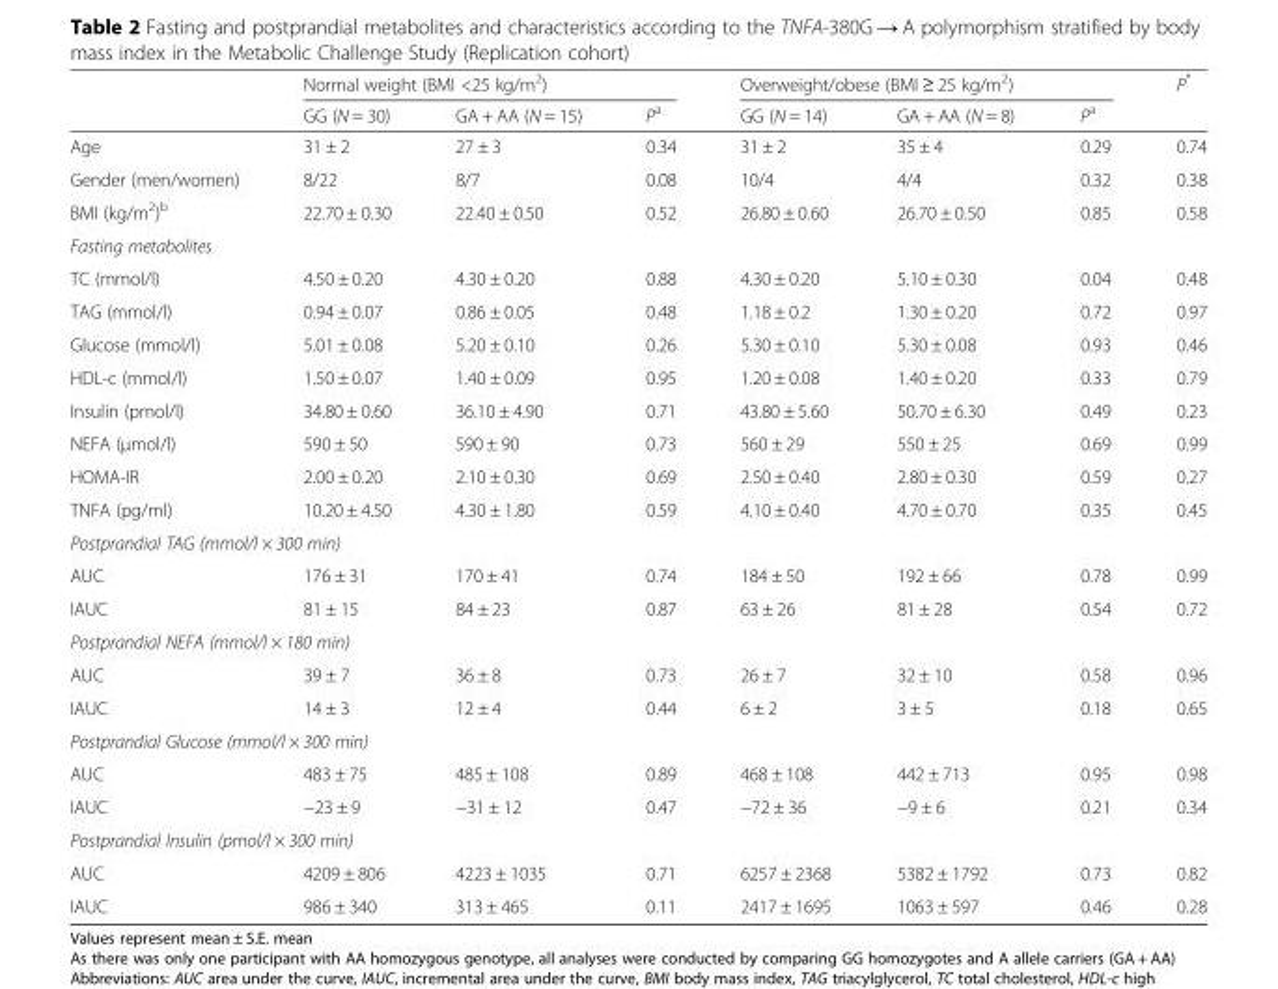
<table><thead><tr><td rowspan="2"></td><td colspan="3">Normal weight (BMI &lt;25 kg/m<sup>2</sup>)</td><td colspan="3">Overweight/obese (BMI ≥ 25 kg/m<sup>2</sup>)</td><td rowspan="2">P*</td></tr><tr><td>GG (N = 30)</td><td>GA + AA (N = 15)</td><td>P<sup>a</sup></td><td>GG (N = 14)</td><td>GA + AA (N = 8)</td><td>P<sup>a</sup></td></tr></thead><tbody><tr><td>Age</td><td>31 ± 2</td><td>27 ± 3</td><td>0.34</td><td>31 ± 2</td><td>35 ± 4</td><td>0.29</td><td>0.74</td></tr><tr><td>Gender (men/women)</td><td>8/22</td><td>8/7</td><td>0.08</td><td>10/4</td><td>4/4</td><td>0.32</td><td>0.38</td></tr><tr><td>BMI (kg/m<sup>2</sup>)<sup>b</sup></td><td>22.70 ± 0.30</td><td>22.40 ± 0.50</td><td>0.52</td><td>26.80 ± 0.60</td><td>26.70 ± 0.50</td><td>0.85</td><td>0.58</td></tr><tr><td colspan="8">Fasting metabolites</td></tr><tr><td>TC (mmol/l)</td><td>4.50 ± 0.20</td><td>4.30 ± 0.20</td><td>0.88</td><td>4.30 ± 0.20</td><td>5.10 ± 0.30</td><td>0.04</td><td>0.48</td></tr><tr><td>TAG (mmol/l)</td><td>0.94 ± 0.07</td><td>0.86 ± 0.05</td><td>0.48</td><td>1.18 ± 0.2</td><td>1.30 ± 0.20</td><td>0.72</td><td>0.97</td></tr><tr><td>Glucose (mmol/l)</td><td>5.01 ± 0.08</td><td>5.20 ± 0.10</td><td>0.26</td><td>5.30 ± 0.10</td><td>5.30 ± 0.08</td><td>0.93</td><td>0.46</td></tr><tr><td>HDL-c (mmol/l)</td><td>1.50 ± 0.07</td><td>1.40 ± 0.09</td><td>0.95</td><td>1.20 ± 0.08</td><td>1.40 ± 0.20</td><td>0.33</td><td>0.79</td></tr><tr><td>Insulin (pmol/l)</td><td>34.80 ± 0.60</td><td>36.10 ± 4.90</td><td>0.71</td><td>43.80 ± 5.60</td><td>50.70 ± 6.30</td><td>0.49</td><td>0.23</td></tr><tr><td>NEFA (μmol/l)</td><td>590 ± 50</td><td>590 ± 90</td><td>0.73</td><td>560 ± 29</td><td>550 ± 25</td><td>0.69</td><td>0.99</td></tr><tr><td>HOMA-IR</td><td>2.00 ± 0.20</td><td>2.10 ± 0.30</td><td>0.69</td><td>2.50 ± 0.40</td><td>2.80 ± 0.30</td><td>0.59</td><td>0.27</td></tr><tr><td>TNFA (pg/ml)</td><td>10.20 ± 4.50</td><td>4.30 ± 1.80</td><td>0.59</td><td>4.10 ± 0.40</td><td>4.70 ± 0.70</td><td>0.35</td><td>0.45</td></tr><tr><td colspan="8">Postprandial TAG (mmol/l × 300 min)</td></tr><tr><td>AUC</td><td>176 ± 31</td><td>170 ± 41</td><td>0.74</td><td>184 ± 50</td><td>192 ± 66</td><td>0.78</td><td>0.99</td></tr><tr><td>IAUC</td><td>81 ± 15</td><td>84 ± 23</td><td>0.87</td><td>63 ± 26</td><td>81 ± 28</td><td>0.54</td><td>0.72</td></tr><tr><td colspan="8">Postprandial NEFA (mmol/l × 180 min)</td></tr><tr><td>AUC</td><td>39 ± 7</td><td>36 ± 8</td><td>0.73</td><td>26 ± 7</td><td>32 ± 10</td><td>0.58</td><td>0.96</td></tr><tr><td>IAUC</td><td>14 ± 3</td><td>12 ± 4</td><td>0.44</td><td>6 ± 2</td><td>3 ± 5</td><td>0.18</td><td>0.65</td></tr><tr><td colspan="8">Postprandial Glucose (mmol/l × 300 min)</td></tr><tr><td>AUC</td><td>483 ± 75</td><td>485 ± 108</td><td>0.89</td><td>468 ± 108</td><td>442 ± 713</td><td>0.95</td><td>0.98</td></tr><tr><td>IAUC</td><td>−23 ± 9</td><td>−31 ± 12</td><td>0.47</td><td>−72 ± 36</td><td>−9 ± 6</td><td>0.21</td><td>0.34</td></tr><tr><td colspan="8">Postprandial Insulin (pmol/l × 300 min)</td></tr><tr><td>AUC</td><td>4209 ± 806</td><td>4223 ± 1035</td><td>0.71</td><td>6257 ± 2368</td><td>5382 ± 1792</td><td>0.73</td><td>0.82</td></tr><tr><td>IAUC</td><td>986 ± 340</td><td>313 ± 465</td><td>0.11</td><td>2417 ± 1695</td><td>1063 ± 597</td><td>0.46</td><td>0.28</td></tr></tbody></table>